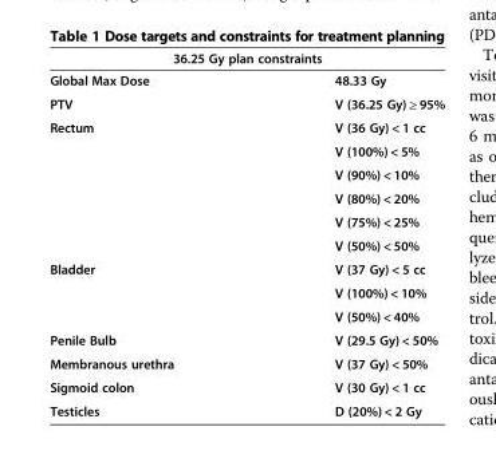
<table><thead><tr><td>36.25 Gy plan constraints</td><td></td></tr></thead><tbody><tr><td>Global Max Dose</td><td>48.33 Gy</td></tr><tr><td>PTV</td><td>V (36.25 Gy) ≥ 95%</td></tr><tr><td rowspan="6">Rectum</td><td>V (36 Gy) &lt; 1 cc</td></tr><tr><td>V (100%) &lt; 5%</td></tr><tr><td>V (90%) &lt; 10%</td></tr><tr><td>V (80%) &lt; 20%</td></tr><tr><td>V (75%) &lt; 25%</td></tr><tr><td>V (50%) &lt; 50%</td></tr><tr><td rowspan="3">Bladder</td><td>V (37 Gy) &lt; 5 cc</td></tr><tr><td>V (100%) &lt; 10%</td></tr><tr><td>V (50%) &lt; 40%</td></tr><tr><td>Penile Bulb</td><td>V (29.5 Gy) &lt; 50%</td></tr><tr><td>Membranous urethra</td><td>V (37 Gy) &lt; 50%</td></tr><tr><td>Sigmoid colon</td><td>V (30 Gy) &lt; 1 cc</td></tr><tr><td>Testicles</td><td>D (20%) &lt; 2 Gy</td></tr></tbody></table>